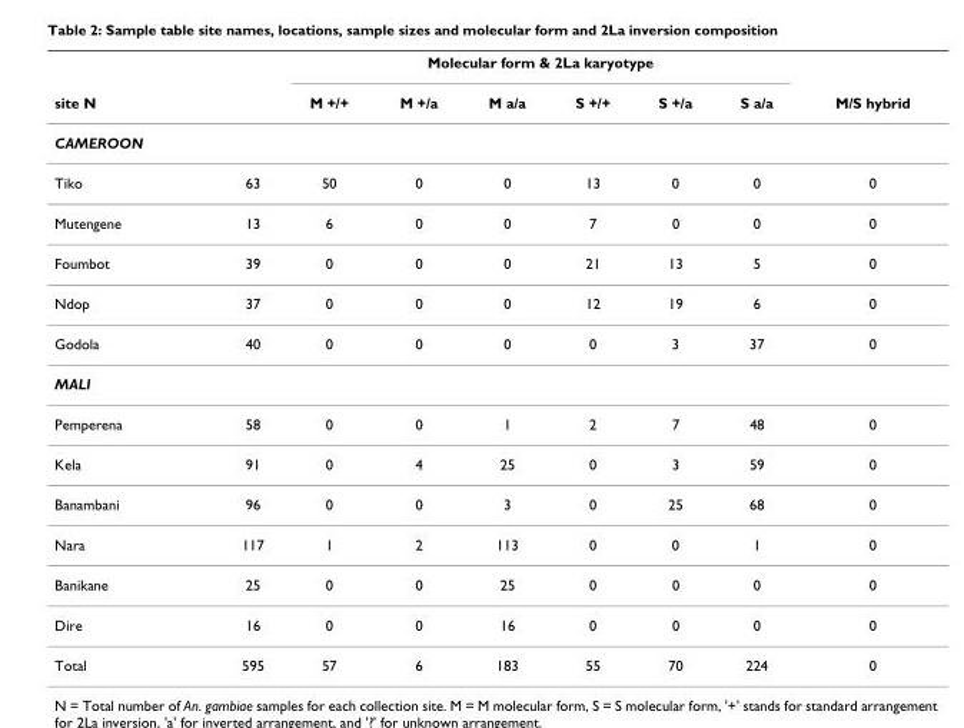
<table><thead><tr><td rowspan="2">site N</td><td rowspan="2"></td><td colspan="6">Molecular form &amp; 2La karyotype</td><td rowspan="2">M/S hybrid</td></tr><tr><td>M +/+</td><td>M +/a</td><td>M a/a</td><td>S +/+</td><td>S +/a</td><td>S a/a</td></tr></thead><tbody><tr><td colspan="9">CAMEROON</td></tr><tr><td>Tiko</td><td>63</td><td>50</td><td>0</td><td>0</td><td>13</td><td>0</td><td>0</td><td>0</td></tr><tr><td>Mutengene</td><td>13</td><td>6</td><td>0</td><td>0</td><td>7</td><td>0</td><td>0</td><td>0</td></tr><tr><td>Foumbot</td><td>39</td><td>0</td><td>0</td><td>0</td><td>21</td><td>13</td><td>5</td><td>0</td></tr><tr><td>Ndop</td><td>37</td><td>0</td><td>0</td><td>0</td><td>12</td><td>19</td><td>6</td><td>0</td></tr><tr><td>Godola</td><td>40</td><td>0</td><td>0</td><td>0</td><td>0</td><td>3</td><td>37</td><td>0</td></tr><tr><td colspan="9">MALI</td></tr><tr><td>Pemperena</td><td>58</td><td>0</td><td>0</td><td>1</td><td>2</td><td>7</td><td>48</td><td>0</td></tr><tr><td>Kela</td><td>91</td><td>0</td><td>4</td><td>25</td><td>0</td><td>3</td><td>59</td><td>0</td></tr><tr><td>Banambani</td><td>96</td><td>0</td><td>0</td><td>3</td><td>0</td><td>25</td><td>68</td><td>0</td></tr><tr><td>Nara</td><td>117</td><td>1</td><td>2</td><td>113</td><td>0</td><td>0</td><td>1</td><td>0</td></tr><tr><td>Banikane</td><td>25</td><td>0</td><td>0</td><td>25</td><td>0</td><td>0</td><td>0</td><td>0</td></tr><tr><td>Dire</td><td>16</td><td>0</td><td>0</td><td>16</td><td>0</td><td>0</td><td>0</td><td>0</td></tr><tr><td>Total</td><td>595</td><td>57</td><td>6</td><td>183</td><td>55</td><td>70</td><td>224</td><td>0</td></tr></tbody></table>